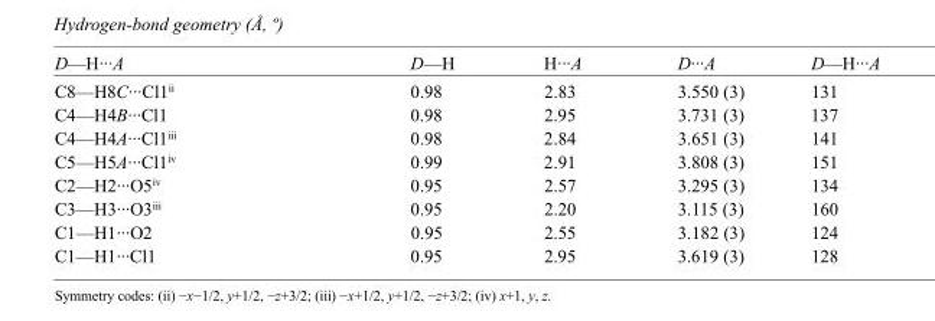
<table><tbody><tr><td>D—H···A</td><td>D—H</td><td>H···A</td><td>D···A</td><td>D—H···A</td></tr><tr><td>C8—H8C···Cl1<sup>ii</sup></td><td>0.98</td><td>2.83</td><td>3.550 (3)</td><td>131</td></tr><tr><td>C4—H4B···Cl1</td><td>0.98</td><td>2.95</td><td>3.731 (3)</td><td>137</td></tr><tr><td>C4—H4A···Cl1<sup>iii</sup></td><td>0.98</td><td>2.84</td><td>3.651 (3)</td><td>141</td></tr><tr><td>C5—H5A···Cl1<sup>iv</sup></td><td>0.99</td><td>2.91</td><td>3.808 (3)</td><td>151</td></tr><tr><td>C2—H2···O5<sup>iv</sup></td><td>0.95</td><td>2.57</td><td>3.295 (3)</td><td>134</td></tr><tr><td>C3—H3···O3<sup>iii</sup></td><td>0.95</td><td>2.20</td><td>3.115 (3)</td><td>160</td></tr><tr><td>C1—H1···O2</td><td>0.95</td><td>2.55</td><td>3.182 (3)</td><td>124</td></tr><tr><td>C1—H1···Cl1</td><td>0.95</td><td>2.95</td><td>3.619 (3)</td><td>128</td></tr></tbody></table>